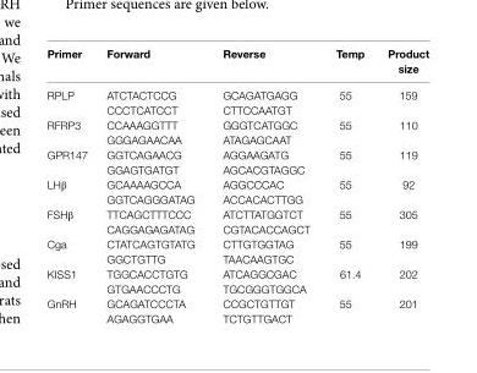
<table><thead><tr><td>Primer</td><td>Forward</td><td>reverse</td><td>Temp</td><td>Product size</td></tr></thead><tbody><tr><td>RPLP</td><td>ATCTACTCCG CCCTCATCCT</td><td>GCAGATGAGG CTTCCAATGT</td><td>55</td><td>159</td></tr><tr><td>RFRP3</td><td>CCAAAGGTTT GGGAGAACAA</td><td>GGGTCATGGC ATAGAGCAAT</td><td>55</td><td>110</td></tr><tr><td>GPR147</td><td>GGTCAGAACG GGAGTGATGT</td><td>AGGAAGATG AGCACGTAGGC</td><td>55</td><td>119</td></tr><tr><td>LHβ</td><td>GCAAAAGCCA GGTCAGGGATAG</td><td>AGGCCCAC ACCACACTTGG</td><td>55</td><td>92</td></tr><tr><td>FSHβ</td><td>TTCAGCTTTCCC CAGGAGAGATAG</td><td>ATCTTATGGTCT CGTACACCAGCT</td><td>55</td><td>305</td></tr><tr><td>Cga</td><td>CTATCAGTGTATG GGCTGTTG</td><td>CTTGTGGTAG TAACAAGTGC</td><td>55</td><td>199</td></tr><tr><td>KISS1</td><td>TGGCACCTGTG GTGAACCCTG</td><td>ATCAGGCGAC TGCGGGTGGCA</td><td>61.4</td><td>202</td></tr><tr><td>GnRH</td><td>GCAGATCCCTA AGAGGTGAA</td><td>CCGCTGTTGT TCTGTTGACT</td><td>55</td><td>201</td></tr></tbody></table>